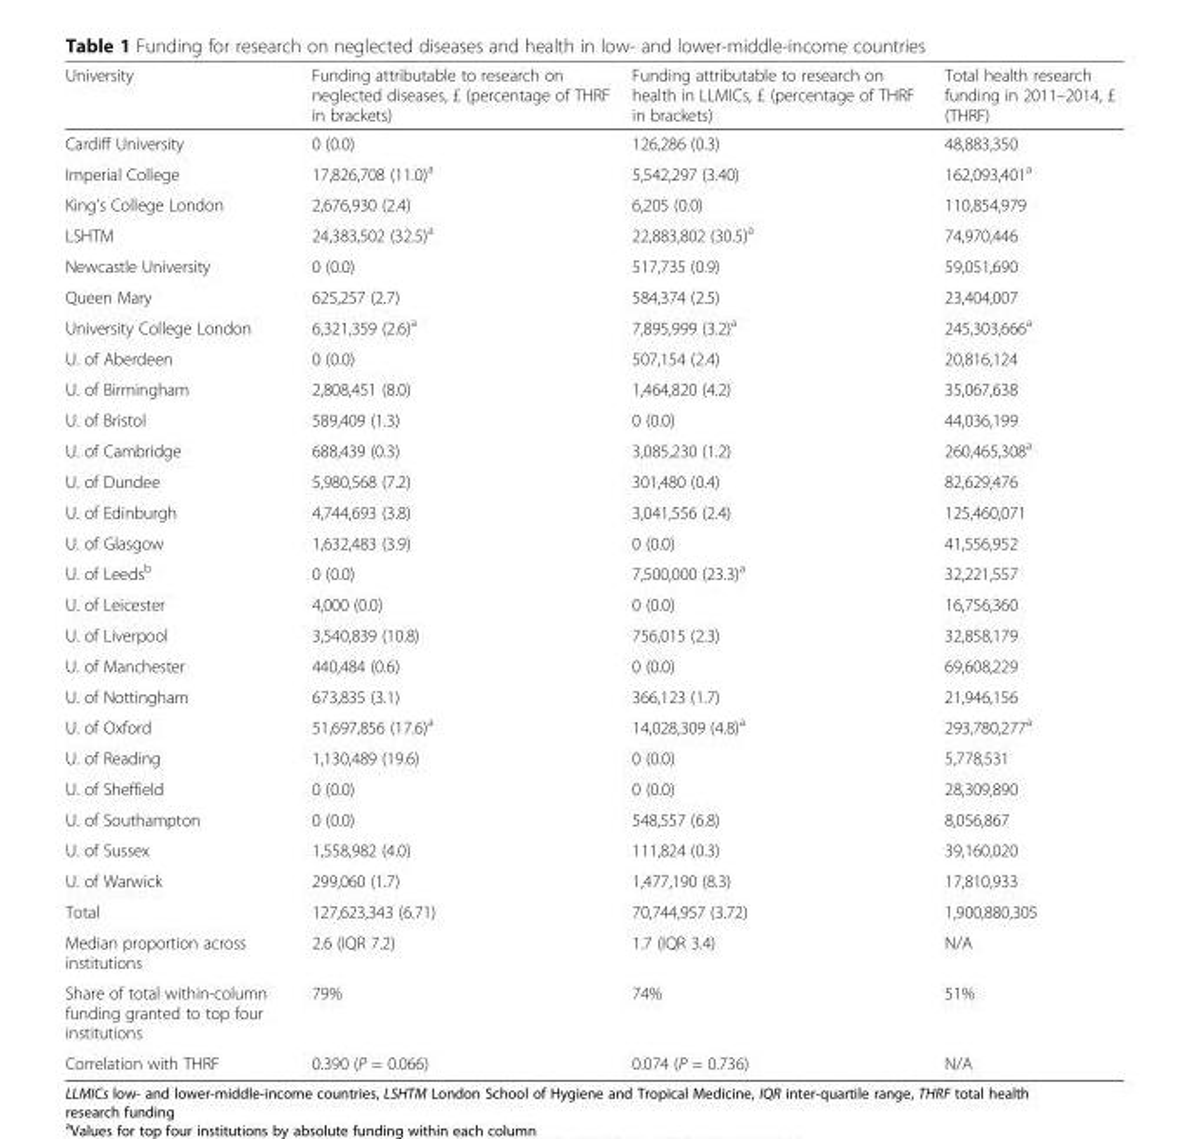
<table><thead><tr><td>University</td><td>Funding attributable to research on neglected diseases, £ (percentage of THRF in brackets)</td><td>Funding attributable to research on health in LLMICs, £ (percentage of THRF in brackets)</td><td>Total health research funding in 2011–2014, £ (THRF)</td></tr></thead><tbody><tr><td>Cardiff University</td><td>0 (0.0)</td><td>126,286 (0.3)</td><td>48,883,350</td></tr><tr><td>Imperial College</td><td>17,826,708 (11.0)<sup>a</sup></td><td>5,542,297 (3.40)</td><td>162,093,401<sup>a</sup></td></tr><tr><td>King’s College London</td><td>2,676,930 (2.4)</td><td>6,205 (0.0)</td><td>110,854,979</td></tr><tr><td>LSHTM</td><td>24,383,502 (32.5)<sup>a</sup></td><td>22,883,802 (30.5)<sup>a</sup></td><td>74,970,446</td></tr><tr><td>Newcastle University</td><td>0 (0.0)</td><td>517,735 (0.9)</td><td>59,051,690</td></tr><tr><td>Queen Mary</td><td>625,257 (2.7)</td><td>584,374 (2.5)</td><td>23,404,007</td></tr><tr><td>University College London</td><td>6,321,359 (2.6)<sup>a</sup></td><td>7,895,999 (3.2)<sup>a</sup></td><td>245,303,666<sup>a</sup></td></tr><tr><td>U. of Aberdeen</td><td>0 (0.0)</td><td>507,154 (2.4)</td><td>20,816,124</td></tr><tr><td>U. of Birmingham</td><td>2,808,451 (8.0)</td><td>1,464,820 (4.2)</td><td>35,067,638</td></tr><tr><td>U. of Bristol</td><td>589,409 (1.3)</td><td>0 (0.0)</td><td>44,036,199</td></tr><tr><td>U. of Cambridge</td><td>688,439 (0.3)</td><td>3,085,230 (1.2)</td><td>260,465,308<sup>a</sup></td></tr><tr><td>U. of Dundee</td><td>5,980,568 (7.2)</td><td>301,480 (0.4)</td><td>82,629,476</td></tr><tr><td>U. of Edinburgh</td><td>4,744,693 (3.8)</td><td>3,041,556 (2.4)</td><td>125,460,071</td></tr><tr><td>U. of Glasgow</td><td>1,632,483 (3.9)</td><td>0 (0.0)</td><td>41,556,952</td></tr><tr><td>U. of Leeds<sup>b</sup></td><td>0 (0.0)</td><td>7,500,000 (23.3)<sup>a</sup></td><td>32,221,557</td></tr><tr><td>U. of Leicester</td><td>4,000 (0.0)</td><td>0 (0.0)</td><td>16,756,360</td></tr><tr><td>U. of Liverpool</td><td>3,540,839 (10.8)</td><td>756,015 (2.3)</td><td>32,858,179</td></tr><tr><td>U. of Manchester</td><td>440,484 (0.6)</td><td>0 (0.0)</td><td>69,608,229</td></tr><tr><td>U. of Nottingham</td><td>673,835 (3.1)</td><td>366,123 (1.7)</td><td>21,946,156</td></tr><tr><td>U. of Oxford</td><td>51,697,856 (17.6)<sup>a</sup></td><td>14,028,309 (4.8)<sup>a</sup></td><td>293,780,277<sup>a</sup></td></tr><tr><td>U. of Reading</td><td>1,130,489 (19.6)</td><td>0 (0.0)</td><td>5,778,531</td></tr><tr><td>U. of Sheffield</td><td>0 (0.0)</td><td>0 (0.0)</td><td>28,309,890</td></tr><tr><td>U. of Southampton</td><td>0 (0.0)</td><td>548,557 (6.8)</td><td>8,056,867</td></tr><tr><td>U. of Sussex</td><td>1,558,982 (4.0)</td><td>111,824 (0.3)</td><td>39,160,020</td></tr><tr><td>U. of Warwick</td><td>299,060 (1.7)</td><td>1,477,190 (8.3)</td><td>17,810,933</td></tr><tr><td>Total</td><td>127,623,343 (6.71)</td><td>70,744,957 (3.72)</td><td>1,900,880,305</td></tr><tr><td>Median proportion across institutions</td><td>2.6 (IQR 7.2)</td><td>1.7 (IQR 3.4)</td><td>N/A</td></tr><tr><td>Share of total within-column funding granted to top four institutions</td><td>79%</td><td>74%</td><td>51%</td></tr><tr><td>Correlation with THRF</td><td>0.390 (P = 0.066)</td><td>0.074 (P = 0.736)</td><td>N/A</td></tr></tbody></table>